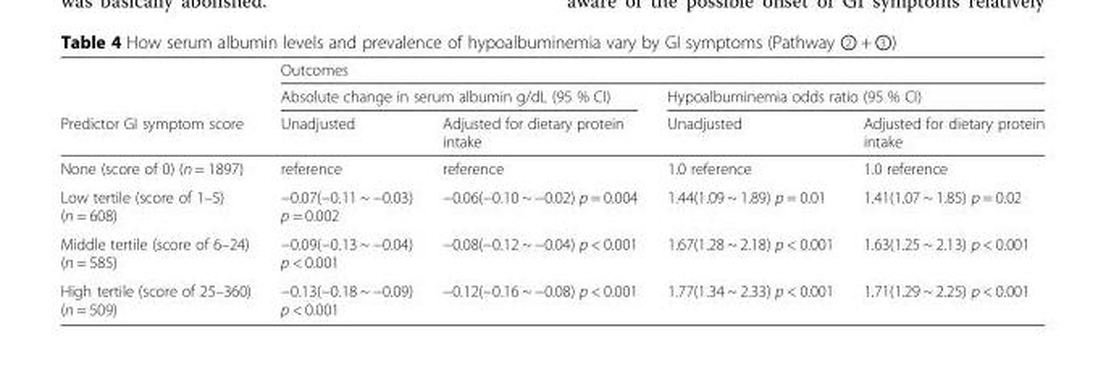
<table><thead><tr><td rowspan="3">Predictor GI symptom score</td><td colspan="4">Outcomes</td></tr><tr><td colspan="2">Absolute change in serum albumin g/dL (95 % CI)</td><td colspan="2">Hypoalbuminemia odds ratio (95 % CI)</td></tr><tr><td>Unadjusted</td><td>Adjusted for dietary protein intake</td><td>Unadjusted</td><td>Adjusted for dietary protein intake</td></tr></thead><tbody><tr><td>None (score of 0) (n = 1897)</td><td>reference</td><td>reference</td><td>1.0 reference</td><td>1.0 reference</td></tr><tr><td>Low tertile (score of 1–5) (n = 608)</td><td>−0.07(−0.11 ~ −0.03) p = 0.002</td><td>−0.06(−0.10 ~ −0.02) p = 0.004</td><td>1.44(1.09 ~ 1.89) p = 0.01</td><td>1.41(1.07 ~ 1.85) p = 0.02</td></tr><tr><td>Middle tertile (score of 6–24) (n = 585)</td><td>−0.09(−0.13 ~ −0.04) p &lt; 0.001</td><td>−0.08(−0.12 ~ −0.04) p &lt; 0.001</td><td>1.67(1.28 ~ 2.18) p &lt; 0.001</td><td>1.63(1.25 ~ 2.13) p &lt; 0.001</td></tr><tr><td>High tertile (score of 25–360) (n = 509)</td><td>−0.13(−0.18 ~ −0.09) p &lt; 0.001</td><td>−0.12(−0.16 ~ −0.08) p &lt; 0.001</td><td>1.77(1.34 ~ 2.33) p &lt; 0.001</td><td>1.71(1.29 ~ 2.25) p &lt; 0.001</td></tr></tbody></table>